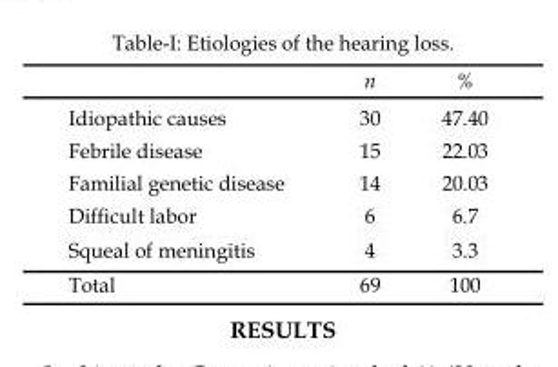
<table><thead><tr><td></td><td>n</td><td>%</td></tr></thead><tbody><tr><td>Idiopathic causes</td><td>30</td><td>47.40</td></tr><tr><td>Febrile disease</td><td>15</td><td>22.03</td></tr><tr><td>Familial genetic disease</td><td>14</td><td>20.03</td></tr><tr><td>Difficult labor</td><td>6</td><td>6.7</td></tr><tr><td>Squeal of meningitis</td><td>4</td><td>3.3</td></tr><tr><td>Total</td><td>69</td><td>100</td></tr></tbody></table>